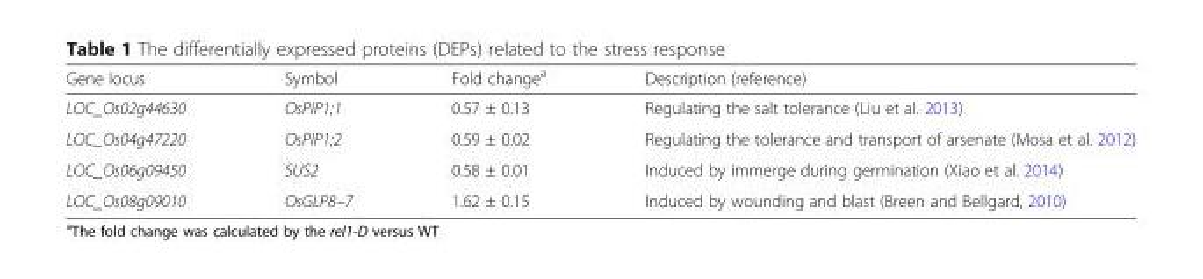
<table><thead><tr><td>Gene locus</td><td>Symbol</td><td>Fold change<sup>a</sup></td><td>Description (reference)</td></tr></thead><tbody><tr><td>LOC_Os02g44630</td><td>OsPIP1;1</td><td>0.57 ± 0.13</td><td>Regulating the salt tolerance (Liu et al. 2013)</td></tr><tr><td>LOC_Os04g47220</td><td>OsPIP1;2</td><td>0.59 ± 0.02</td><td>Regulating the tolerance and transport of arsenate (Mosa et al. 2012)</td></tr><tr><td>LOC_Os06g09450</td><td>SUS2</td><td>0.58 ± 0.01</td><td>Induced by immerge during germination (Xiao et al. 2014)</td></tr><tr><td>LOC_Os08g09010</td><td>OsGLP8–7</td><td>1.62 ± 0.15</td><td>Induced by wounding and blast (Breen and Bellgard, 2010)</td></tr></tbody></table>